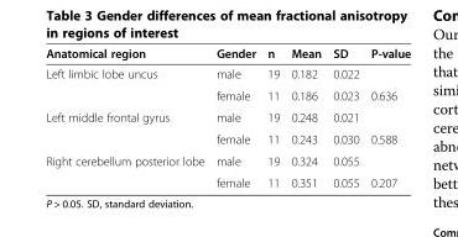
<table><thead><tr><td>Anatomical region</td><td>Gender</td><td>n</td><td>Mean</td><td>SD</td><td>P-value</td></tr></thead><tbody><tr><td rowspan="2">Left limbic lobe uncus</td><td>male</td><td>19</td><td>0.182</td><td>0.022</td><td></td></tr><tr><td>female</td><td>11</td><td>0.186</td><td>0.023</td><td>0.636</td></tr><tr><td rowspan="2">Left middle frontal gyrus</td><td>male</td><td>19</td><td>0.248</td><td>0.021</td><td></td></tr><tr><td>female</td><td>11</td><td>0.243</td><td>0.030</td><td>0.588</td></tr><tr><td rowspan="2">Right cerebellum posterior lobe</td><td>male</td><td>19</td><td>0.324</td><td>0.055</td><td></td></tr><tr><td>female</td><td>11</td><td>0.351</td><td>0.055</td><td>0.207</td></tr></tbody></table>